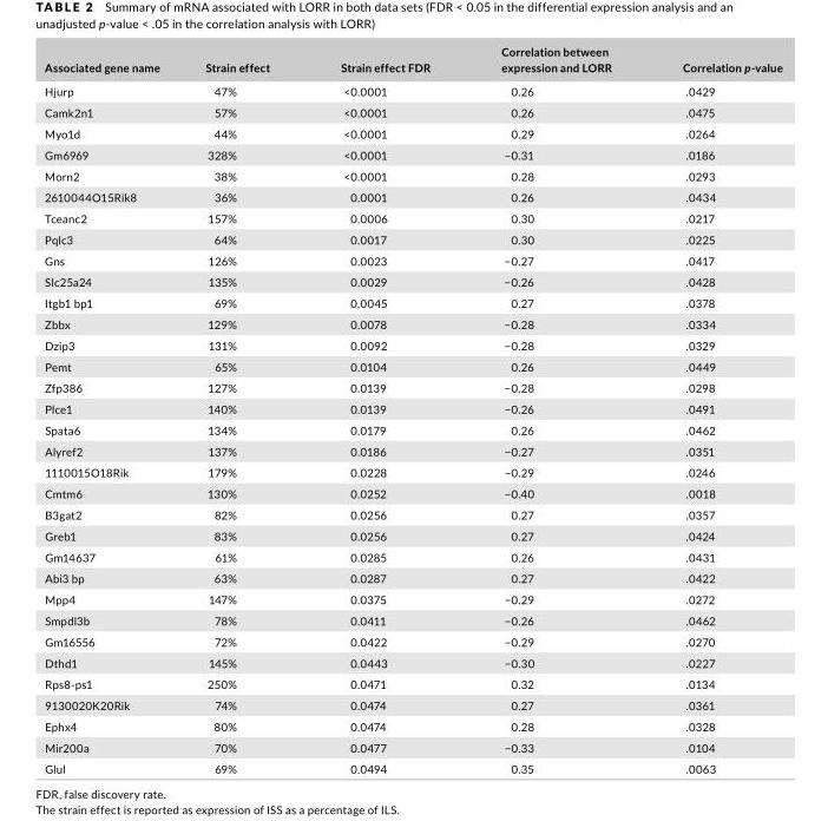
<table><thead><tr><td>Associatedgenename</td><td>Straineffect</td><td>StraineffectFDR</td><td>Correlationbetween expressionandLORR</td><td>Correlationp-value</td></tr></thead><tbody><tr><td>Hjurp</td><td>47%</td><td>&lt;0.0001</td><td>0.26</td><td>.0429</td></tr><tr><td>Camk2n1</td><td>57%</td><td>&lt;0.0001</td><td>0.26</td><td>.0475</td></tr><tr><td>Myo1d</td><td>44%</td><td>&lt;0.0001</td><td>0.29</td><td>.0264</td></tr><tr><td>Gm6969</td><td>328%</td><td>&lt;0.0001</td><td>−0.31</td><td>.0186</td></tr><tr><td>Morn2</td><td>38%</td><td>&lt;0.0001</td><td>0.28</td><td>.0293</td></tr><tr><td>2610044O15Rik8</td><td>36%</td><td>0.0001</td><td>0.26</td><td>.0434</td></tr><tr><td>Tceanc2</td><td>157%</td><td>0.0006</td><td>0.30</td><td>.0217</td></tr><tr><td>Pqlc3</td><td>64%</td><td>0.0017</td><td>0.30</td><td>.0225</td></tr><tr><td>Gns</td><td>126%</td><td>0.0023</td><td>−0.27</td><td>.0417</td></tr><tr><td>Slc25a24</td><td>135%</td><td>0.0029</td><td>−0.26</td><td>.0428</td></tr><tr><td>Itgb1 bp1</td><td>69%</td><td>0.0045</td><td>0.27</td><td>.0378</td></tr><tr><td>Zbbx</td><td>129%</td><td>0.0078</td><td>−0.28</td><td>.0334</td></tr><tr><td>Dzip3</td><td>131%</td><td>0.0092</td><td>−0.28</td><td>.0329</td></tr><tr><td>Pemt</td><td>65%</td><td>0.0104</td><td>0.26</td><td>.0449</td></tr><tr><td>Zfp386</td><td>127%</td><td>0.0139</td><td>−0.28</td><td>.0298</td></tr><tr><td>Plce1</td><td>140%</td><td>0.0139</td><td>−0.26</td><td>.0491</td></tr><tr><td>Spata6</td><td>134%</td><td>0.0179</td><td>0.26</td><td>.0462</td></tr><tr><td>Alyref2</td><td>137%</td><td>0.0186</td><td>−0.27</td><td>.0351</td></tr><tr><td>1110015O18Rik</td><td>179%</td><td>0.0228</td><td>−0.29</td><td>.0246</td></tr><tr><td>Cmtm6</td><td>130%</td><td>0.0252</td><td>−0.40</td><td>.0018</td></tr><tr><td>B3gat2</td><td>82%</td><td>0.0256</td><td>0.27</td><td>.0357</td></tr><tr><td>Greb1</td><td>83%</td><td>0.0256</td><td>0.27</td><td>.0424</td></tr><tr><td>Gm14637</td><td>61%</td><td>0.0285</td><td>0.26</td><td>.0431</td></tr><tr><td>Abi3 bp</td><td>63%</td><td>0.0287</td><td>0.27</td><td>.0422</td></tr><tr><td>Mpp4</td><td>147%</td><td>0.0375</td><td>−0.29</td><td>.0272</td></tr><tr><td>Smpdl3b</td><td>78%</td><td>0.0411</td><td>−0.26</td><td>.0462</td></tr><tr><td>Gm16556</td><td>72%</td><td>0.0422</td><td>−0.29</td><td>.0270</td></tr><tr><td>Dthd1</td><td>145%</td><td>0.0443</td><td>−0.30</td><td>.0227</td></tr><tr><td>Rps8- ps1</td><td>250%</td><td>0.0471</td><td>0.32</td><td>.0134</td></tr><tr><td>9130020K20Rik</td><td>74%</td><td>0.0474</td><td>0.27</td><td>.0361</td></tr><tr><td>Ephx4</td><td>80%</td><td>0.0474</td><td>0.28</td><td>.0328</td></tr><tr><td>Mir200a</td><td>70%</td><td>0.0477</td><td>−0.33</td><td>.0104</td></tr><tr><td>Glul</td><td>69%</td><td>0.0494</td><td>0.35</td><td>.0063</td></tr></tbody></table>